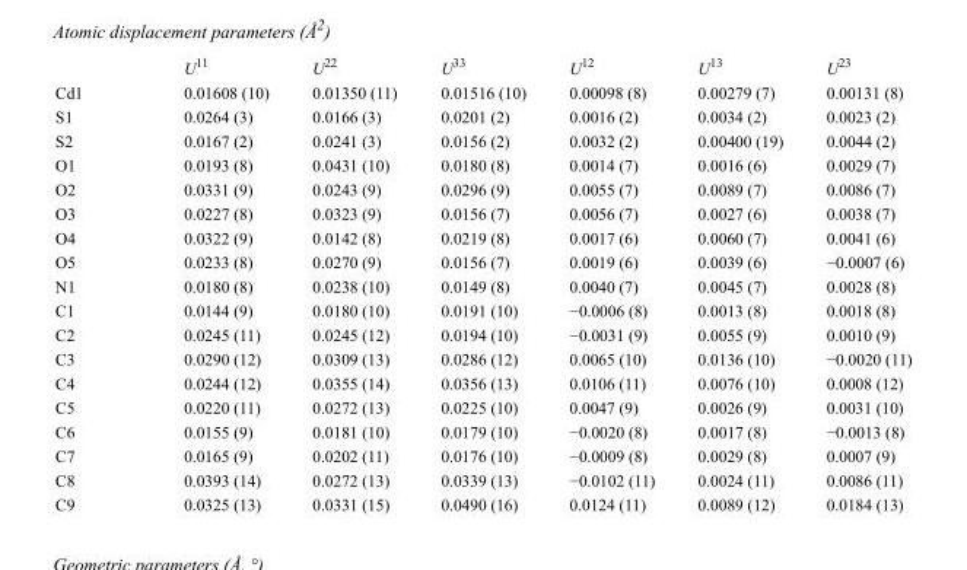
<table><thead><tr><td></td><td>U<sup>11</sup></td><td>U<sup>22</sup></td><td>U<sup>33</sup></td><td>U<sup>12</sup></td><td>U<sup>13</sup></td><td>U<sup>23</sup></td></tr></thead><tbody><tr><td>Cd1</td><td>0.01608 (10)</td><td>0.01350 (11)</td><td>0.01516 (10)</td><td>0.00098 (8)</td><td>0.00279 (7)</td><td>0.00131 (8)</td></tr><tr><td>S1</td><td>0.0264 (3)</td><td>0.0166 (3)</td><td>0.0201 (2)</td><td>0.0016 (2)</td><td>0.0034 (2)</td><td>0.0023 (2)</td></tr><tr><td>S2</td><td>0.0167 (2)</td><td>0.0241 (3)</td><td>0.0156 (2)</td><td>0.0032 (2)</td><td>0.00400 (19)</td><td>0.0044 (2)</td></tr><tr><td>O1</td><td>0.0193 (8)</td><td>0.0431 (10)</td><td>0.0180 (8)</td><td>0.0014 (7)</td><td>0.0016 (6)</td><td>0.0029 (7)</td></tr><tr><td>O2</td><td>0.0331 (9)</td><td>0.0243 (9)</td><td>0.0296 (9)</td><td>0.0055 (7)</td><td>0.0089 (7)</td><td>0.0086 (7)</td></tr><tr><td>O3</td><td>0.0227 (8)</td><td>0.0323 (9)</td><td>0.0156 (7)</td><td>0.0056 (7)</td><td>0.0027 (6)</td><td>0.0038 (7)</td></tr><tr><td>O4</td><td>0.0322 (9)</td><td>0.0142 (8)</td><td>0.0219 (8)</td><td>0.0017 (6)</td><td>0.0060 (7)</td><td>0.0041 (6)</td></tr><tr><td>O5</td><td>0.0233 (8)</td><td>0.0270 (9)</td><td>0.0156 (7)</td><td>0.0019 (6)</td><td>0.0039 (6)</td><td>−0.0007 (6)</td></tr><tr><td>N1</td><td>0.0180 (8)</td><td>0.0238 (10)</td><td>0.0149 (8)</td><td>0.0040 (7)</td><td>0.0045 (7)</td><td>0.0028 (8)</td></tr><tr><td>C1</td><td>0.0144 (9)</td><td>0.0180 (10)</td><td>0.0191 (10)</td><td>−0.0006 (8)</td><td>0.0013 (8)</td><td>0.0018 (8)</td></tr><tr><td>C2</td><td>0.0245 (11)</td><td>0.0245 (12)</td><td>0.0194 (10)</td><td>−0.0031 (9)</td><td>0.0055 (9)</td><td>0.0010 (9)</td></tr><tr><td>C3</td><td>0.0290 (12)</td><td>0.0309 (13)</td><td>0.0286 (12)</td><td>0.0065 (10)</td><td>0.0136 (10)</td><td>−0.0020 (11)</td></tr><tr><td>C4</td><td>0.0244 (12)</td><td>0.0355 (14)</td><td>0.0356 (13)</td><td>0.0106 (11)</td><td>0.0076 (10)</td><td>0.0008 (12)</td></tr><tr><td>C5</td><td>0.0220 (11)</td><td>0.0272 (13)</td><td>0.0225 (10)</td><td>0.0047 (9)</td><td>0.0026 (9)</td><td>0.0031 (10)</td></tr><tr><td>C6</td><td>0.0155 (9)</td><td>0.0181 (10)</td><td>0.0179 (10)</td><td>−0.0020 (8)</td><td>0.0017 (8)</td><td>−0.0013 (8)</td></tr><tr><td>C7</td><td>0.0165 (9)</td><td>0.0202 (11)</td><td>0.0176 (10)</td><td>−0.0009 (8)</td><td>0.0029 (8)</td><td>0.0007 (9)</td></tr><tr><td>C8</td><td>0.0393 (14)</td><td>0.0272 (13)</td><td>0.0339 (13)</td><td>−0.0102 (11)</td><td>0.0024 (11)</td><td>0.0086 (11)</td></tr><tr><td>C9</td><td>0.0325 (13)</td><td>0.0331 (15)</td><td>0.0490 (16)</td><td>0.0124 (11)</td><td>0.0089 (12)</td><td>0.0184 (13)</td></tr></tbody></table>